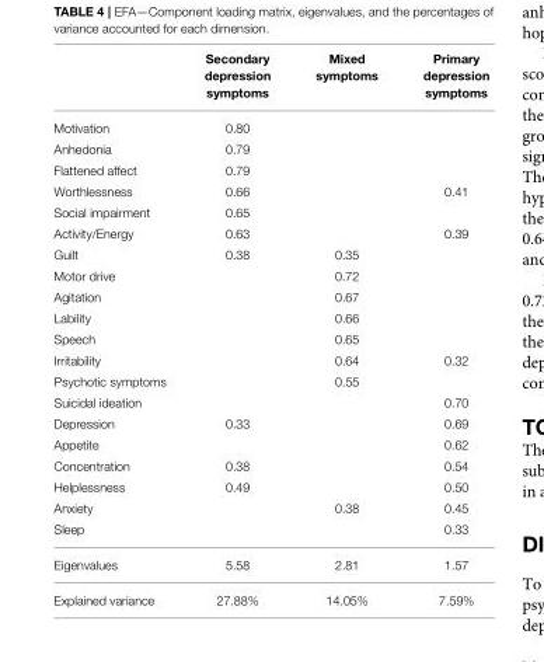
<table><thead><tr><td></td><td>Secondary depression symptoms</td><td>Mixed symptoms</td><td>Primary depression symptoms</td></tr></thead><tbody><tr><td>Motivation</td><td>0.80</td><td></td><td></td></tr><tr><td>Anhedonia</td><td>0.79</td><td></td><td></td></tr><tr><td>Flattened affect</td><td>0.79</td><td></td><td></td></tr><tr><td>Worthlessness</td><td>0.66</td><td></td><td>0.41</td></tr><tr><td>Social impairment</td><td>0.65</td><td></td><td></td></tr><tr><td>Activity/Energy</td><td>0.63</td><td></td><td>0.39</td></tr><tr><td>Guilt</td><td>0.38</td><td>0.35</td><td></td></tr><tr><td>Motor drive</td><td></td><td>0.72</td><td></td></tr><tr><td>Agitation</td><td></td><td>0.67</td><td></td></tr><tr><td>Lability</td><td></td><td>0.66</td><td></td></tr><tr><td>Speech</td><td></td><td>0.65</td><td></td></tr><tr><td>Irritability</td><td></td><td>0.64</td><td>0.32</td></tr><tr><td>Psychotic symptoms</td><td></td><td>0.55</td><td></td></tr><tr><td>Suicidal ideation</td><td></td><td></td><td>0.70</td></tr><tr><td>Depression</td><td>0.33</td><td></td><td>0.69</td></tr><tr><td>Appetite</td><td></td><td></td><td>0.62</td></tr><tr><td>Concentration</td><td>0.38</td><td></td><td>0.54</td></tr><tr><td>Helplessness</td><td>0.49</td><td></td><td>0.50</td></tr><tr><td>Anxiety</td><td></td><td>0.38</td><td>0.45</td></tr><tr><td>Sleep</td><td></td><td></td><td>0.33</td></tr><tr><td>Eigenvalues</td><td>5.58</td><td>2.81</td><td>1.57</td></tr><tr><td>Explained variance</td><td>27.88%</td><td>14.05%</td><td>7.59%</td></tr></tbody></table>